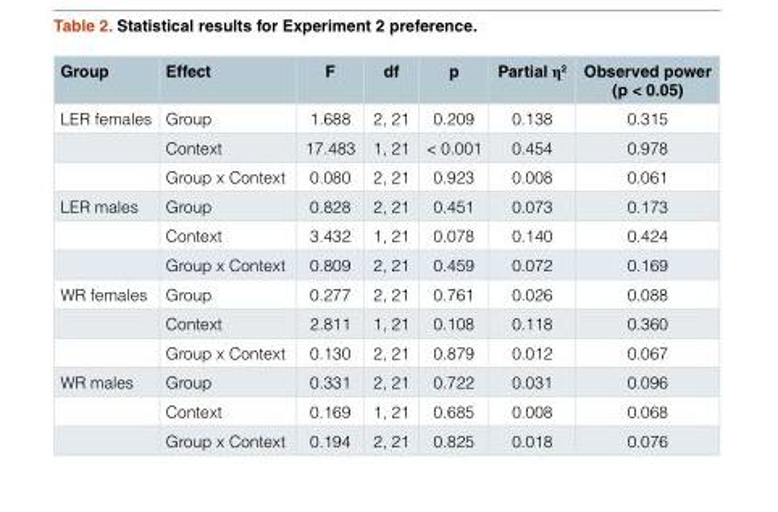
<table><thead><tr><td>Group</td><td>Effect</td><td>F</td><td>df</td><td>p</td><td>Partial η<sup>2</sup></td><td>Observed power (p &lt; 0.05)</td></tr></thead><tbody><tr><td rowspan="3">LER females</td><td>Group</td><td>1.688</td><td>2, 21</td><td>0.209</td><td>0.138</td><td>0.315</td></tr><tr><td>Context</td><td>17.483</td><td>1, 21</td><td>&lt; 0.001</td><td>0.454</td><td>0.978</td></tr><tr><td>Group x Context</td><td>0.080</td><td>2, 21</td><td>0.923</td><td>0.008</td><td>0.061</td></tr><tr><td rowspan="3">LER males</td><td>Group</td><td>0.828</td><td>2, 21</td><td>0.451</td><td>0.073</td><td>0.173</td></tr><tr><td>Context</td><td>3.432</td><td>1, 21</td><td>0.078</td><td>0.140</td><td>0.424</td></tr><tr><td>Group x Context</td><td>0.809</td><td>2, 21</td><td>0.459</td><td>0.072</td><td>0.169</td></tr><tr><td rowspan="3">WR females</td><td>Group</td><td>0.277</td><td>2, 21</td><td>0.761</td><td>0.026</td><td>0.088</td></tr><tr><td>Context</td><td>2.811</td><td>1, 21</td><td>0.108</td><td>0.118</td><td>0.360</td></tr><tr><td>Group x Context</td><td>0.130</td><td>2, 21</td><td>0.879</td><td>0.012</td><td>0.067</td></tr><tr><td rowspan="3">WR males</td><td>Group</td><td>0.331</td><td>2, 21</td><td>0.722</td><td>0.031</td><td>0.096</td></tr><tr><td>Context</td><td>0.169</td><td>1, 21</td><td>0.685</td><td>0.008</td><td>0.068</td></tr><tr><td>Group x Context</td><td>0.194</td><td>2, 21</td><td>0.825</td><td>0.018</td><td>0.076</td></tr></tbody></table>